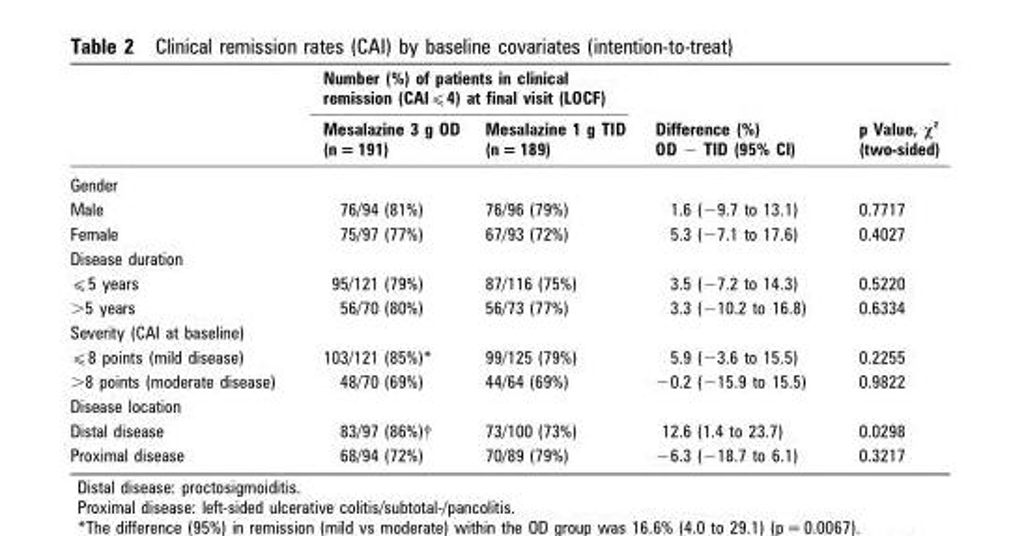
<table><thead><tr><td rowspan="2"></td><td colspan="2">Number (%) of patients in clinical remission (CAI⩽4) at final visit (LOCF)</td><td rowspan="2">Difference (%) OD − TID (95% CI)</td><td rowspan="2">p Value, χ <sup>2</sup> (two-sided)</td></tr><tr><td>Mesalazine 3 g OD (n = 191)</td><td>Mesalazine 1 g TID (n = 189)</td></tr></thead><tbody><tr><td colspan="5">Gender</td></tr><tr><td>Male</td><td>76/94 (81%)</td><td>76/96 (79%)</td><td>1.6 (−9.7 to 13.1)</td><td>0.7717</td></tr><tr><td>Female</td><td>75/97 (77%)</td><td>67/93 (72%)</td><td>5.3 (−7.1 to 17.6)</td><td>0.4027</td></tr><tr><td colspan="5">Disease duration</td></tr><tr><td>⩽5 years</td><td>95/121 (79%)</td><td>87/116 (75%)</td><td>3.5 (−7.2 to 14.3)</td><td>0.5220</td></tr><tr><td>&gt;5 years</td><td>56/70 (80%)</td><td>56/73 (77%)</td><td>3.3 (−10.2 to 16.8)</td><td>0.6334</td></tr><tr><td colspan="5">Severity (CAI at baseline)</td></tr><tr><td>⩽8 points (mild disease)</td><td>103/121 (85%)*</td><td>99/125 (79%)</td><td>5.9 (−3.6 to 15.5)</td><td>0.2255</td></tr><tr><td>&gt;8 points (moderate disease)</td><td>48/70 (69%)</td><td>44/64 (69%)</td><td>−0.2 (−15.9 to 15.5)</td><td>0.9822</td></tr><tr><td colspan="5">Disease location</td></tr><tr><td>Distal disease</td><td>83/97 (86%)†</td><td>73/100 (73%)</td><td>12.6 (1.4 to 23.7)</td><td>0.0298</td></tr><tr><td>Proximal disease</td><td>68/94 (72%)</td><td>70/89 (79%)</td><td>−6.3 (−18.7 to 6.1)</td><td>0.3217</td></tr></tbody></table>